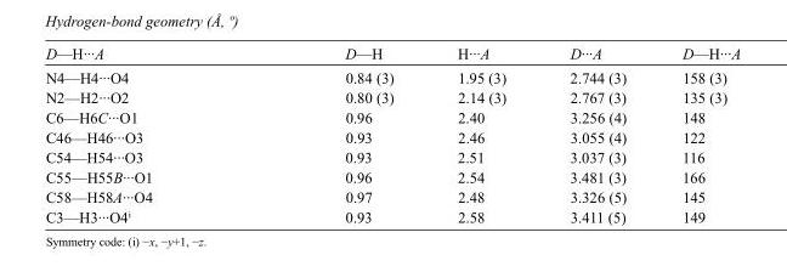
<table><tbody><tr><td>D—H···A</td><td>D—H</td><td>H···A</td><td>D···A</td><td>D—H···A</td></tr><tr><td>N4—H4···O4</td><td>0.84 (3)</td><td>1.95 (3)</td><td>2.744 (3)</td><td>158 (3)</td></tr><tr><td>N2—H2···O2</td><td>0.80 (3)</td><td>2.14 (3)</td><td>2.767 (3)</td><td>135 (3)</td></tr><tr><td>C6—H6C···O1</td><td>0.96</td><td>2.40</td><td>3.256 (4)</td><td>148</td></tr><tr><td>C46—H46···O3</td><td>0.93</td><td>2.46</td><td>3.055 (4)</td><td>122</td></tr><tr><td>C54—H54···O3</td><td>0.93</td><td>2.51</td><td>3.037 (3)</td><td>116</td></tr><tr><td>C55—H55B···O1</td><td>0.96</td><td>2.54</td><td>3.481 (3)</td><td>166</td></tr><tr><td>C58—H58A···O4</td><td>0.97</td><td>2.48</td><td>3.326 (5)</td><td>145</td></tr><tr><td>C3—H3···O4<sup>i</sup></td><td>0.93</td><td>2.58</td><td>3.411 (5)</td><td>149</td></tr></tbody></table>